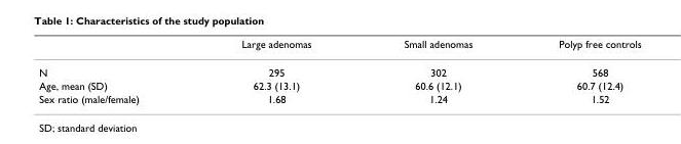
<table><thead><tr><td></td><td>Large adenomas</td><td>Small adenomas</td><td>Polyp free controls</td></tr></thead><tbody><tr><td>N</td><td>295</td><td>302</td><td>568</td></tr><tr><td>Age, mean (SD)</td><td>62.3 (13.1)</td><td>60.6 (12.1)</td><td>60.7 (12.4)</td></tr><tr><td>Sex ratio (male/female)</td><td>1.68</td><td>1.24</td><td>1.52</td></tr></tbody></table>